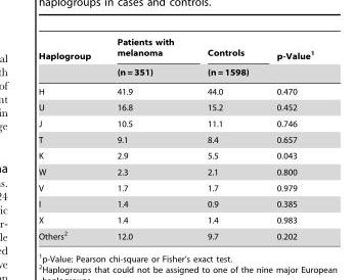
<table><thead><tr><td rowspan="2">Haplogroup</td><td rowspan="2">Patients with melanoma (n = 351)</td><td rowspan="2">Controls (n = 1598)</td><td rowspan="2">p-Value<sup>1</sup></td></tr><tr></tr></thead><tbody><tr><td>H</td><td>41.9</td><td>44.0</td><td>0.470</td></tr><tr><td>U</td><td>16.8</td><td>15.2</td><td>0.452</td></tr><tr><td>J</td><td>10.5</td><td>11.1</td><td>0.746</td></tr><tr><td>T</td><td>9.1</td><td>8.4</td><td>0.657</td></tr><tr><td>K</td><td>2.9</td><td>5.5</td><td>0.043</td></tr><tr><td>W</td><td>2.3</td><td>2.1</td><td>0.800</td></tr><tr><td>V</td><td>1.7</td><td>1.7</td><td>0.979</td></tr><tr><td>I</td><td>1.4</td><td>0.9</td><td>0.385</td></tr><tr><td>X</td><td>1.4</td><td>1.4</td><td>0.983</td></tr><tr><td>Others<sup>2</sup></td><td>12.0</td><td>9.7</td><td>0.202</td></tr></tbody></table>